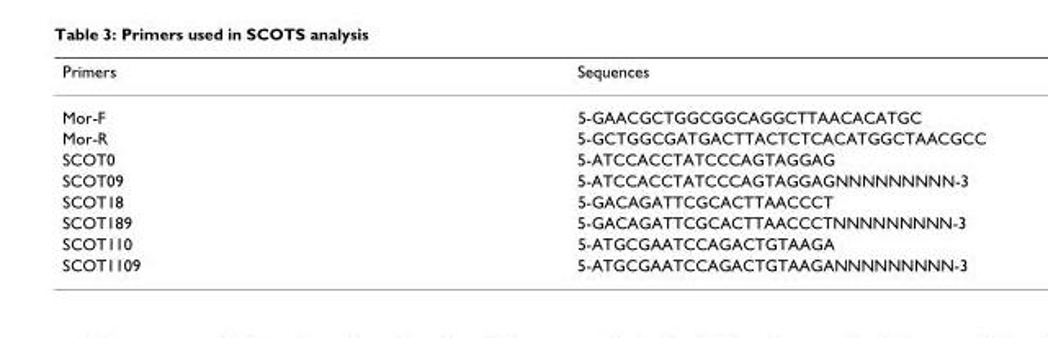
<table><thead><tr><td>Primers</td><td>Sequences</td></tr></thead><tbody><tr><td>Mor-F</td><td>5-GAACGCTGGCGGCAGGCTTAACACATGC</td></tr><tr><td>Mor-R</td><td>5-GCTGGCGATGACTTACTCTCACATGGCTAACGCC</td></tr><tr><td>SCOT0</td><td>5-ATCCACCTATCCCAGTAGGAG</td></tr><tr><td>SCOT09</td><td>5-ATCCACCTATCCCAGTAGGAGNNNNNNNNN-3</td></tr><tr><td>SCOT18</td><td>5-GACAGATTCGCACTTAACCCT</td></tr><tr><td>SCOT189</td><td>5-GACAGATTCGCACTTAACCCTNNNNNNNNN-3</td></tr><tr><td>SCOT110</td><td>5-ATGCGAATCCAGACTGTAAGA</td></tr><tr><td>SCOT1109</td><td>5-ATGCGAATCCAGACTGTAAGANNNNNNNNN-3</td></tr></tbody></table>